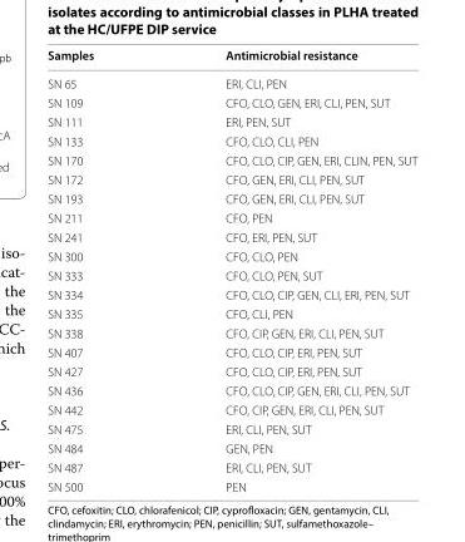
<table><thead><tr><td>Samples</td><td>Antimicrobial resistance</td></tr></thead><tbody><tr><td>SN 65</td><td>ERI, CLI, PEN</td></tr><tr><td>SN 109</td><td>CFO, CLO, GEN, ERI, CLI, PEN, SUT</td></tr><tr><td>SN 111</td><td>ERI, PEN, SUT</td></tr><tr><td>SN 133</td><td>CFO, CLO, CLI, PEN</td></tr><tr><td>SN 170</td><td>CFO, CLO, CIP, GEN, ERI, CLIN, PEN, SUT</td></tr><tr><td>SN 172</td><td>CFO, GEN, ERI, CLI, PEN, SUT</td></tr><tr><td>SN 193</td><td>CFO, GEN, ERI, CLI, PEN, SUT</td></tr><tr><td>SN 211</td><td>CFO, PEN</td></tr><tr><td>SN 241</td><td>CFO, ERI, PEN, SUT</td></tr><tr><td>SN 300</td><td>CFO, CLO, PEN</td></tr><tr><td>SN 333</td><td>CFO, CLO, PEN, SUT</td></tr><tr><td>SN 334</td><td>CFO, CLO, CIP, GEN, CLI, ERI, PEN, SUT</td></tr><tr><td>SN 335</td><td>CFO, CLI, PEN</td></tr><tr><td>SN 338</td><td>CFO, CIP, GEN, ERI, CLI, PEN, SUT</td></tr><tr><td>SN 407</td><td>CFO, CLO, CIP, ERI, PEN, SUT</td></tr><tr><td>SN 427</td><td>CFO, CLO, CIP, ERI, PEN, SUT</td></tr><tr><td>SN 436</td><td>CFO, CLO, CIP, GEN, ERI, CLI, PEN, SUT</td></tr><tr><td>SN 442</td><td>CFO, CIP, GEN, ERI, CLI, PEN, SUT</td></tr><tr><td>SN 475</td><td>ERI, CLI, PEN, SUT</td></tr><tr><td>SN 484</td><td>GEN, PEN</td></tr><tr><td>SN 487</td><td>ERI, CLI, PEN, SUT</td></tr><tr><td>SN 500</td><td>PEN</td></tr></tbody></table>